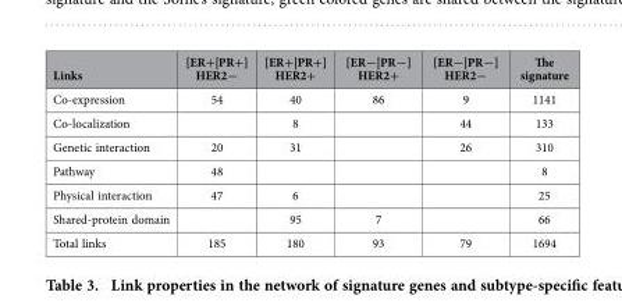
<table><thead><tr><td>Links</td><td>[ER+|PR+] HER2−</td><td>[ER+|PR+] HER2+</td><td>[ER−|PR−] HER2+</td><td>[ER−|PR−] HER2−</td><td>The signature</td></tr></thead><tbody><tr><td>Co-expression</td><td>54</td><td>40</td><td>86</td><td>9</td><td>1141</td></tr><tr><td>Co-localization</td><td></td><td>8</td><td></td><td>44</td><td>133</td></tr><tr><td>Genetic interaction</td><td>20</td><td>31</td><td></td><td>26</td><td>310</td></tr><tr><td>Pathway</td><td>48</td><td></td><td></td><td></td><td>8</td></tr><tr><td>Physical interaction</td><td>47</td><td>6</td><td></td><td></td><td>25</td></tr><tr><td>Shared-protein domain</td><td></td><td>95</td><td>7</td><td></td><td>66</td></tr><tr><td>Total links</td><td>185</td><td>180</td><td>93</td><td>79</td><td>1694</td></tr></tbody></table>